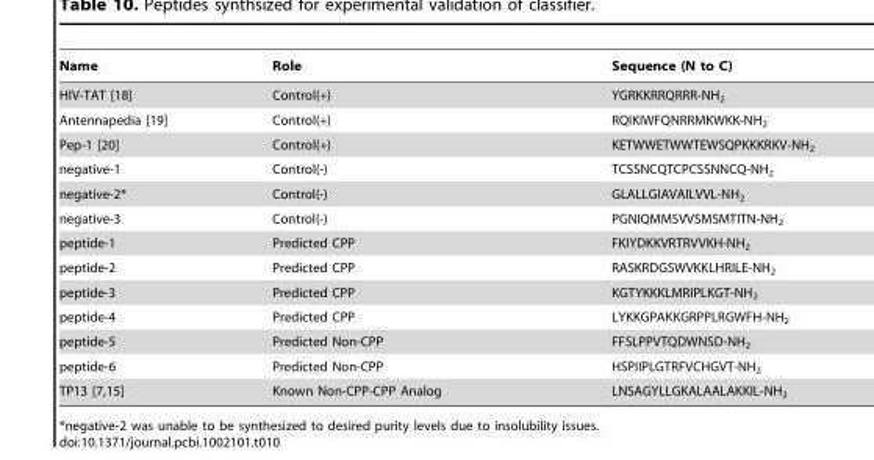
<table><thead><tr><td>Name</td><td>Role</td><td>Sequence (N to C)</td></tr></thead><tbody><tr><td>HIV-TAT [18]</td><td>Control(+)</td><td>YGRKKRRQRRR-NH<sub>2</sub></td></tr><tr><td>Antennapedia [19]</td><td>Control(+)</td><td>RQIKIWFQNRRMKWKK-NH<sub>2</sub></td></tr><tr><td>Pep-1 [20]</td><td>Control(+)</td><td>KETWWETWWTEWSQPKKKRKV-NH<sub>2</sub></td></tr><tr><td>negative-1</td><td>Control(-)</td><td>TCSSNCQTCPCSSNNCQ-NH<sub>2</sub></td></tr><tr><td>negative-2*</td><td>Control(-)</td><td>GLALLGIAVAILVVL-NH<sub>2</sub></td></tr><tr><td>negative-3</td><td>Control(-)</td><td>PGNIQMMSVVSMSMTITN-NH<sub>2</sub></td></tr><tr><td>peptide-1</td><td>Predicted CPP</td><td>FKIYDKKVRTRVVKH-NH<sub>2</sub></td></tr><tr><td>peptide-2</td><td>Predicted CPP</td><td>RASKRDGSWVKKLHRILE-NH<sub>2</sub></td></tr><tr><td>peptide-3</td><td>Predicted CPP</td><td>KGTYKKKLMRIPLKGT-NH<sub>2</sub></td></tr><tr><td>peptide-4</td><td>Predicted CPP</td><td>LYKKGPAKKGRPPLRGWFH-NH<sub>2</sub></td></tr><tr><td>peptide-5</td><td>Predicted Non-CPP</td><td>FFSLPPVTQDWNSD-NH<sub>2</sub></td></tr><tr><td>peptide-6</td><td>Predicted Non-CPP</td><td>HSPIIPLGTRFVCHGVT-NH<sub>2</sub></td></tr><tr><td>TP13 [7,15]</td><td>Known Non-CPP-CPP Analog</td><td>LNSAGYLLGKALAALAKKIL-NH<sub>2</sub></td></tr></tbody></table>